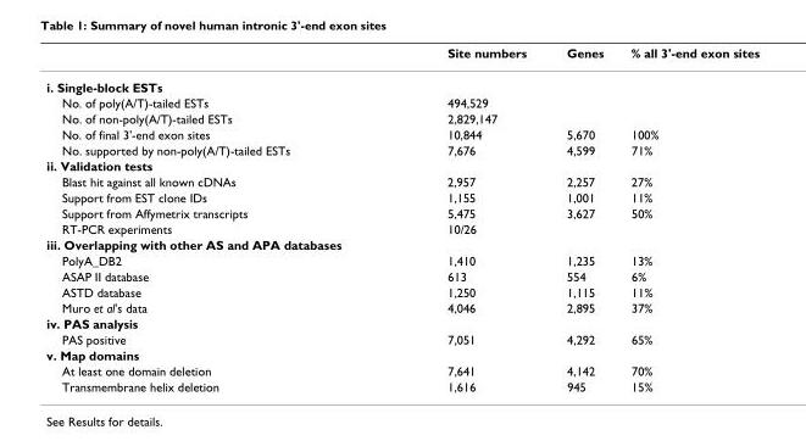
<table><thead><tr><td></td><td>Site numbers</td><td>Genes</td><td>% all 3&#x27;-end exon sites</td></tr></thead><tbody><tr><td colspan="4">i. Single-block ESTs</td></tr><tr><td>No. of poly(A/T)-tailed ESTs</td><td>494,529</td><td></td><td></td></tr><tr><td>No. of non-poly(A/T)-tailed ESTs</td><td>2,829,147</td><td></td><td></td></tr><tr><td>No. of final 3&#x27;-end exon sites</td><td>10,844</td><td>5,670</td><td>100%</td></tr><tr><td>No. supported by non-poly(A/T)-tailed ESTs</td><td>7,676</td><td>4,599</td><td>71%</td></tr><tr><td colspan="4">ii. Validation tests</td></tr><tr><td>Blast hit against all known cDNAs</td><td>2,957</td><td>2,257</td><td>27%</td></tr><tr><td>Support from EST clone IDs</td><td>1,155</td><td>1,001</td><td>11%</td></tr><tr><td>Support from Affymetrix transcripts</td><td>5,475</td><td>3,627</td><td>50%</td></tr><tr><td>RT-PCR experiments</td><td>10/26</td><td></td><td></td></tr><tr><td colspan="4">iii. Overlapping with other AS and APA databases</td></tr><tr><td>PolyA_DB2</td><td>1,410</td><td>1,235</td><td>13%</td></tr><tr><td>ASAP II database</td><td>613</td><td>554</td><td>6%</td></tr><tr><td>ASTD database</td><td>1,250</td><td>1,115</td><td>11%</td></tr><tr><td>Muro et al&#x27;s data</td><td>4,046</td><td>2,895</td><td>37%</td></tr><tr><td colspan="4">iv. PAS analysis</td></tr><tr><td>PAS positive</td><td>7,051</td><td>4,292</td><td>65%</td></tr><tr><td colspan="4">v. Map domains</td></tr><tr><td>At least one domain deletion</td><td>7,641</td><td>4,142</td><td>70%</td></tr><tr><td>Transmembrane helix deletion</td><td>1,616</td><td>945</td><td>15%</td></tr></tbody></table>